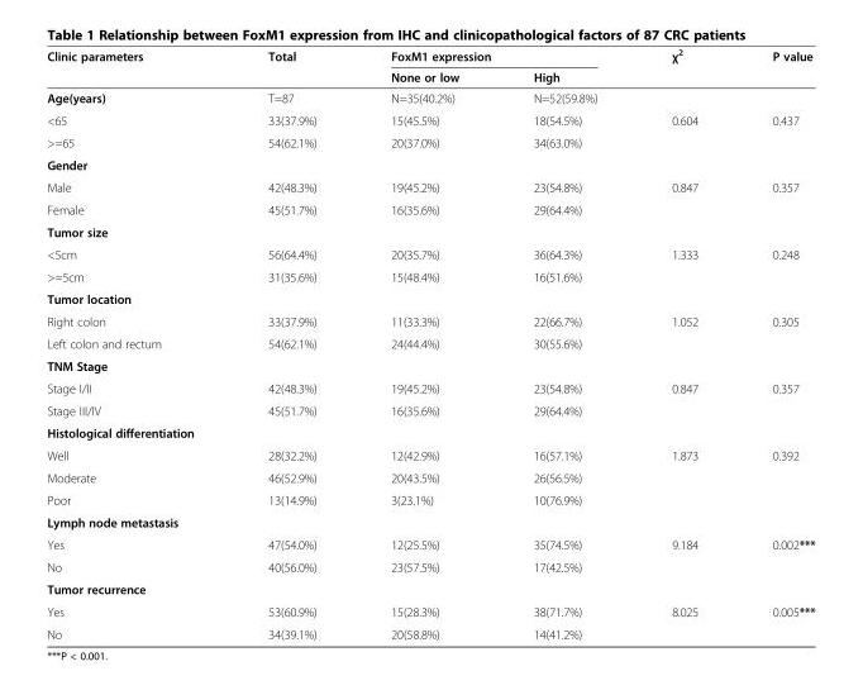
<table><thead><tr><td rowspan="2">Clinic parameters</td><td rowspan="2">Total</td><td colspan="2">FoxM1 expression</td><td rowspan="2">χ<sup>2</sup></td><td rowspan="2">P value</td></tr><tr><td>None or low</td><td>High</td></tr></thead><tbody><tr><td>Age(years)</td><td>T=87</td><td>N=35(40.2%)</td><td>N=52(59.8%)</td><td></td><td></td></tr><tr><td>&lt;65</td><td>33(37.9%)</td><td>15(45.5%)</td><td>18(54.5%)</td><td>0.604</td><td>0.437</td></tr><tr><td>&gt;=65</td><td>54(62.1%)</td><td>20(37.0%)</td><td>34(63.0%)</td><td></td><td></td></tr><tr><td colspan="6">Gender</td></tr><tr><td>Male</td><td>42(48.3%)</td><td>19(45.2%)</td><td>23(54.8%)</td><td>0.847</td><td>0.357</td></tr><tr><td>Female</td><td>45(51.7%)</td><td>16(35.6%)</td><td>29(64.4%)</td><td></td><td></td></tr><tr><td colspan="6">Tumor size</td></tr><tr><td>&lt;5cm</td><td>56(64.4%)</td><td>20(35.7%)</td><td>36(64.3%)</td><td>1.333</td><td>0.248</td></tr><tr><td>&gt;=5cm</td><td>31(35.6%)</td><td>15(48.4%)</td><td>16(51.6%)</td><td></td><td></td></tr><tr><td colspan="6">Tumor location</td></tr><tr><td>Right colon</td><td>33(37.9%)</td><td>11(33.3%)</td><td>22(66.7%)</td><td>1.052</td><td>0.305</td></tr><tr><td>Left colon and rectum</td><td>54(62.1%)</td><td>24(44.4%)</td><td>30(55.6%)</td><td></td><td></td></tr><tr><td colspan="6">TNM Stage</td></tr><tr><td>Stage I/II</td><td>42(48.3%)</td><td>19(45.2%)</td><td>23(54.8%)</td><td>0.847</td><td>0.357</td></tr><tr><td>Stage III/IV</td><td>45(51.7%)</td><td>16(35.6%)</td><td>29(64.4%)</td><td></td><td></td></tr><tr><td colspan="6">Histological differentiation</td></tr><tr><td>Well</td><td>28(32.2%)</td><td>12(42.9%)</td><td>16(57.1%)</td><td>1.873</td><td>0.392</td></tr><tr><td>Moderate</td><td>46(52.9%)</td><td>20(43.5%)</td><td>26(56.5%)</td><td></td><td></td></tr><tr><td>Poor</td><td>13(14.9%)</td><td>3(23.1%)</td><td>10(76.9%)</td><td></td><td></td></tr><tr><td colspan="6">Lymph node metastasis</td></tr><tr><td>Yes</td><td>47(54.0%)</td><td>12(25.5%)</td><td>35(74.5%)</td><td>9.184</td><td>0.002***</td></tr><tr><td>No</td><td>40(56.0%)</td><td>23(57.5%)</td><td>17(42.5%)</td><td></td><td></td></tr><tr><td colspan="6">Tumor recurrence</td></tr><tr><td>Yes</td><td>53(60.9%)</td><td>15(28.3%)</td><td>38(71.7%)</td><td>8.025</td><td>0.005***</td></tr><tr><td>No</td><td>34(39.1%)</td><td>20(58.8%)</td><td>14(41.2%)</td><td></td><td></td></tr></tbody></table>